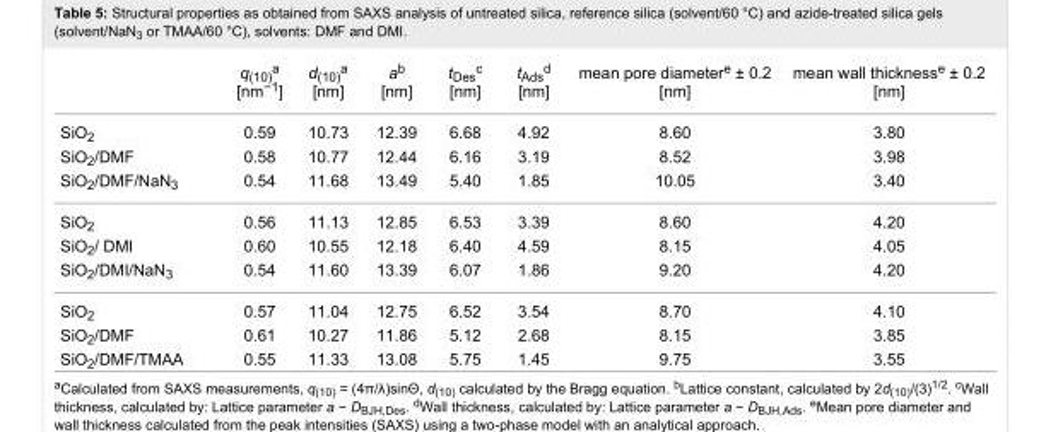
<table><thead><tr><td></td><td>q<sub>(10)</sub><sup>a</sup> [nm<sup>−1</sup>]</td><td>d<sub>(10)</sub><sup>a</sup> [nm]</td><td>a<sup>b</sup> [nm]</td><td>t<sub>Des</sub><sup>c</sup> [nm]</td><td>t<sub>Ads</sub><sup>d</sup> [nm]</td><td>mean pore diameter<sup>e</sup> ± 0.2 [nm]</td><td>mean wall thickness<sup>e</sup> ± 0.2 [nm]</td></tr></thead><tbody><tr><td>SiO<sub>2</sub></td><td>0.59</td><td>10.73</td><td>12.39</td><td>6.68</td><td>4.92</td><td>8.60</td><td>3.80</td></tr><tr><td>SiO<sub>2</sub>/DMF</td><td>0.58</td><td>10.77</td><td>12.44</td><td>6.16</td><td>3.19</td><td>8.52</td><td>3.98</td></tr><tr><td>SiO<sub>2</sub>/DMF/NaN<sub>3</sub></td><td>0.54</td><td>11.68</td><td>13.49</td><td>5.40</td><td>1.85</td><td>10.05</td><td>3.40</td></tr><tr><td>SiO<sub>2</sub></td><td>0.56</td><td>11.13</td><td>12.85</td><td>6.53</td><td>3.39</td><td>8.60</td><td>4.20</td></tr><tr><td>SiO<sub>2</sub>/ DMI</td><td>0.60</td><td>10.55</td><td>12.18</td><td>6.40</td><td>4.59</td><td>8.15</td><td>4.05</td></tr><tr><td>SiO<sub>2</sub>/DMI/NaN<sub>3</sub></td><td>0.54</td><td>11.60</td><td>13.39</td><td>6.07</td><td>1.86</td><td>9.20</td><td>4.20</td></tr><tr><td>SiO<sub>2</sub></td><td>0.57</td><td>11.04</td><td>12.75</td><td>6.52</td><td>3.54</td><td>8.70</td><td>4.10</td></tr><tr><td>SiO<sub>2</sub>/DMF</td><td>0.61</td><td>10.27</td><td>11.86</td><td>5.12</td><td>2.68</td><td>8.15</td><td>3.85</td></tr><tr><td>SiO<sub>2</sub>/DMF/TMAA</td><td>0.55</td><td>11.33</td><td>13.08</td><td>5.75</td><td>1.45</td><td>9.75</td><td>3.55</td></tr></tbody></table>